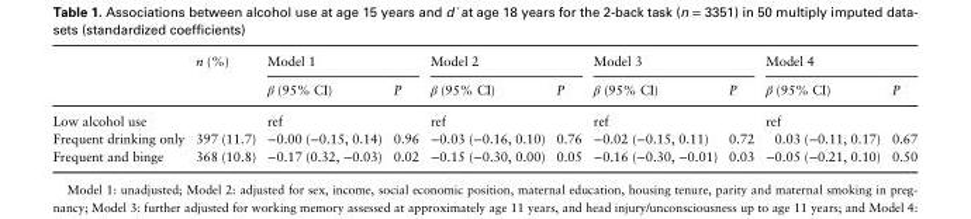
<table><thead><tr><td rowspan="2"></td><td rowspan="2">n (%)</td><td colspan="2">Model 1</td><td colspan="2">Model 2</td><td colspan="2">Model 3</td><td colspan="2">Model 4</td></tr><tr><td>β (95% CI)</td><td>P</td><td>β (95% CI)</td><td>P</td><td>β (95% CI)</td><td>P</td><td>β (95% CI)</td><td>P</td></tr></thead><tbody><tr><td>Low alcohol use</td><td></td><td>ref</td><td></td><td>ref</td><td></td><td>ref</td><td></td><td>ref</td><td></td></tr><tr><td>Frequent drinking only</td><td>397 (11.7)</td><td>−0.00 (−0.15, 0.14)</td><td>0.96</td><td>−0.03 (−0.16, 0.10)</td><td>0.76</td><td>−0.02 (−0.15, 0.11)</td><td>0.72</td><td>0.03 (−0.11, 0.17)</td><td>0.67</td></tr><tr><td>Frequent and binge</td><td>368 (10.8)</td><td>−0.17 (0.32, −0.03)</td><td>0.02</td><td>−0.15 (−0.30, 0.00)</td><td>0.05</td><td>−0.16 (−0.30, −0.01)</td><td>0.03</td><td>−0.05 (−0.21, 0.10)</td><td>0.50</td></tr></tbody></table>